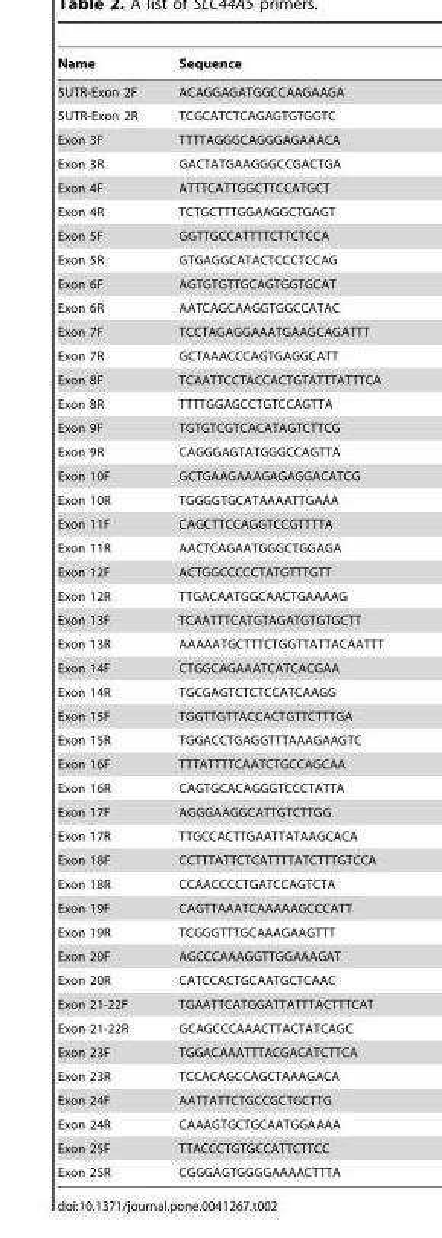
<table><thead><tr><td>Name</td><td>Sequence</td></tr></thead><tbody><tr><td>5UTR-Exon 2F</td><td>ACAGGAGATGGCCAAGAAGA</td></tr><tr><td>5UTR-Exon 2R</td><td>TCGCATCTCAGAGTGTGGTC</td></tr><tr><td>Exon 3F</td><td>TTTTAGGGCAGGGAGAAACA</td></tr><tr><td>Exon 3R</td><td>GACTATGAAGGGCCGACTGA</td></tr><tr><td>Exon 4F</td><td>ATTTCATTGGCTTCCATGCT</td></tr><tr><td>Exon 4R</td><td>TCTGCTTTGGAAGGCTGAGT</td></tr><tr><td>Exon 5F</td><td>GGTTGCCATTTTCTTCTCCA</td></tr><tr><td>Exon 5R</td><td>GTGAGGCATACTCCCTCCAG</td></tr><tr><td>Exon 6F</td><td>AGTGTGTTGCAGTGGTGCAT</td></tr><tr><td>Exon 6R</td><td>AATCAGCAAGGTGGCCATAC</td></tr><tr><td>Exon 7F</td><td>TCCTAGAGGAAATGAAGCAGATTT</td></tr><tr><td>Exon 7R</td><td>GCTAAACCCAGTGAGGCATT</td></tr><tr><td>Exon 8F</td><td>TCAATTCCTACCACTGTATTTATTTCA</td></tr><tr><td>Exon 8R</td><td>TTTTGGAGCCTGTCCAGTTA</td></tr><tr><td>Exon 9F</td><td>TGTGTCGTCACATAGTCTTCG</td></tr><tr><td>Exon 9R</td><td>CAGGGAGTATGGGCCAGTTA</td></tr><tr><td>Exon 10F</td><td>GCTGAAGAAAGAGAGGACATCG</td></tr><tr><td>Exon 10R</td><td>TGGGGTGCATAAAATTGAAA</td></tr><tr><td>Exon 11F</td><td>CAGCTTCCAGGTCCGTTTTA</td></tr><tr><td>Exon 11R</td><td>AACTCAGAATGGGCTGGAGA</td></tr><tr><td>Exon 12F</td><td>ACTGGCCCCCTATGTTTGTT</td></tr><tr><td>Exon 12R</td><td>TTGACAATGGCAACTGAAAAG</td></tr><tr><td>Exon 13F</td><td>TCAATTTCATGTAGATGTGTGCTT</td></tr><tr><td>Exon 13R</td><td>AAAAATGCTTTCTGGTTATTACAATTT</td></tr><tr><td>Exon 14F</td><td>CTGGCAGAAATCATCACGAA</td></tr><tr><td>Exon 14R</td><td>TGCGAGTCTCTCCATCAAGG</td></tr><tr><td>Exon 15F</td><td>TGGTTGTTACCACTGTTCTTTGA</td></tr><tr><td>Exon 15R</td><td>TGGACCTGAGGTTTAAAGAAGTC</td></tr><tr><td>Exon 16F</td><td>TTTATTTTCAATCTGCCAGCAA</td></tr><tr><td>Exon 16R</td><td>CAGTGCACAGGGTCCCTATTA</td></tr><tr><td>Exon 17F</td><td>AGGGAAGGCATTGTCTTGG</td></tr><tr><td>Exon 17R</td><td>TTGCCACTTGAATTATAAGCACA</td></tr><tr><td>Exon 18F</td><td>CCTTTATTCTCATTTTATCTTTGTCCA</td></tr><tr><td>Exon 18R</td><td>CCAACCCCTGATCCAGTCTA</td></tr><tr><td>Exon 19F</td><td>CAGTTAAATCAAAAAGCCCATT</td></tr><tr><td>Exon 19R</td><td>TCGGGTTTGCAAAGAAGTTT</td></tr><tr><td>Exon 20F</td><td>AGCCCAAAGGTTGGAAAGAT</td></tr><tr><td>Exon 20R</td><td>CATCCACTGCAATGCTCAAC</td></tr><tr><td>Exon 21-22F</td><td>TGAATTCATGGATTATTTACTTTCAT</td></tr><tr><td>Exon 21-22R</td><td>GCAGCCCAAACTTACTATCAGC</td></tr><tr><td>Exon 23F</td><td>TGGACAAATTTACGACATCTTCA</td></tr><tr><td>Exon 23R</td><td>TCCACAGCCAGCTAAAGACA</td></tr><tr><td>Exon 24F</td><td>AATTATTCTGCCGCTGCTTG</td></tr><tr><td>Exon 24R</td><td>CAAAGTGCTGCAATGGAAAA</td></tr><tr><td>Exon 25F</td><td>TTACCCTGTGCCATTCTTCC</td></tr><tr><td>Exon 25R</td><td>CGGGAGTGGGGAAAACTTTA</td></tr></tbody></table>